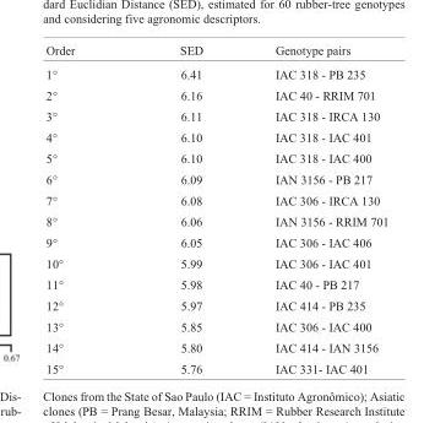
<table><thead><tr><td>Order</td><td>SED</td><td>Genotype pairs</td></tr></thead><tbody><tr><td>1°</td><td>6.41</td><td>IAC 318 - PB 235</td></tr><tr><td>2°</td><td>6.16</td><td>IAC 40 - RRIM 701</td></tr><tr><td>3°</td><td>6.11</td><td>IAC 318 - IRCA 130</td></tr><tr><td>4°</td><td>6.10</td><td>IAC 318 - IAC 401</td></tr><tr><td>5°</td><td>6.10</td><td>IAC 318 - IAC 400</td></tr><tr><td>6°</td><td>6.09</td><td>IAN 3156 - PB 217</td></tr><tr><td>7°</td><td>6.08</td><td>IAC 306 - IRCA 130</td></tr><tr><td>8°</td><td>6.06</td><td>IAN 3156 - RRIM 701</td></tr><tr><td>9°</td><td>6.05</td><td>IAC 306 - IAC 406</td></tr><tr><td>10°</td><td>5.99</td><td>IAC 306 - IAC 401</td></tr><tr><td>11°</td><td>5.98</td><td>IAC 40 - PB 217</td></tr><tr><td>12°</td><td>5.97</td><td>IAC 414 - PB 235</td></tr><tr><td>13°</td><td>5.85</td><td>IAC 306 - IAC 400</td></tr><tr><td>14°</td><td>5.80</td><td>IAC 414 - IAN 3156</td></tr><tr><td>15°</td><td>5.76</td><td>IAC 331- IAC 401</td></tr></tbody></table>